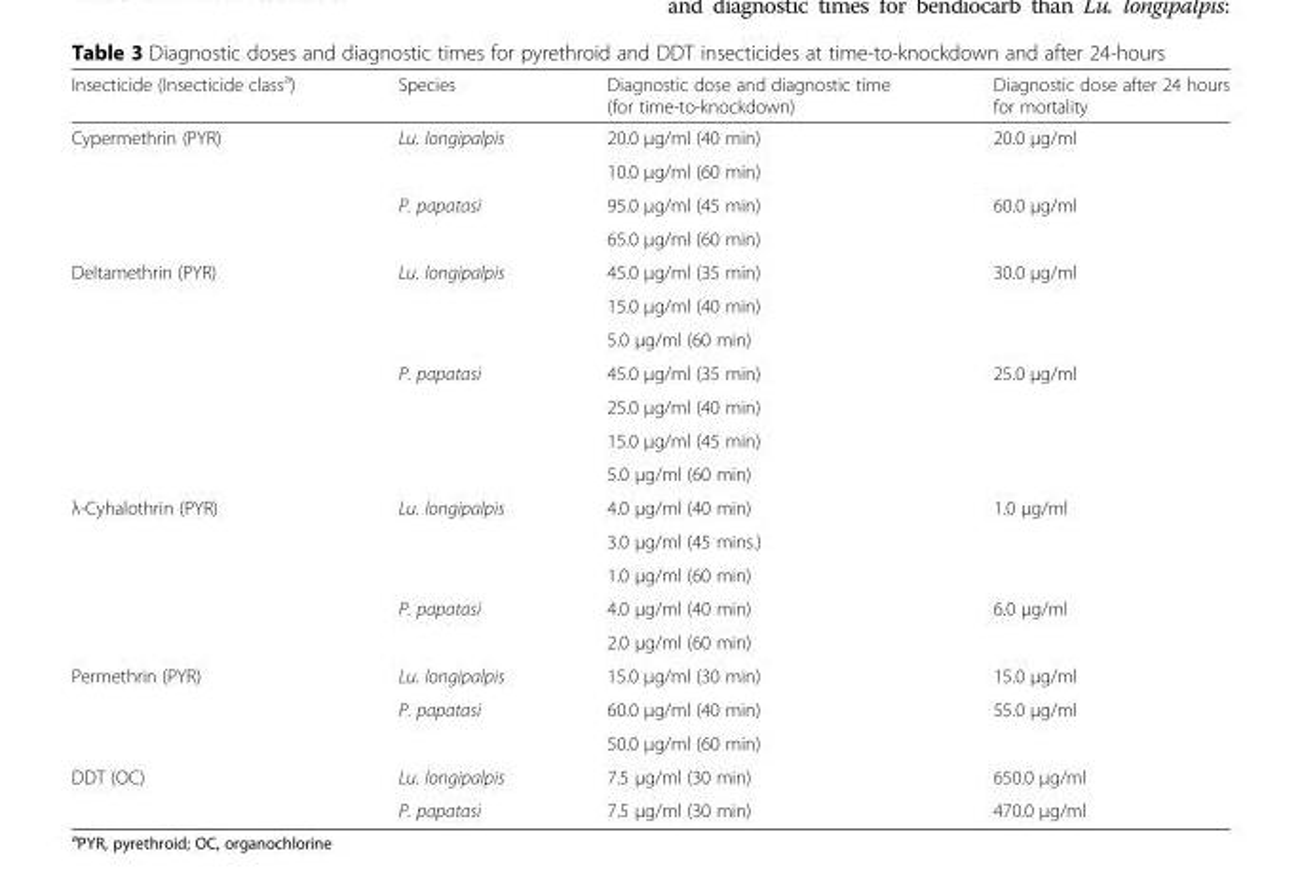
<table><thead><tr><td>Insecticide (Insecticide class<sup>a</sup>)</td><td>Species</td><td>Diagnostic dose and diagnostic time (for time-to-knockdown)</td><td>Diagnostic dose after 24 hours for mortality</td></tr></thead><tbody><tr><td rowspan="4">Cypermethrin (PYR)</td><td rowspan="2">Lu. longipalpis</td><td>20.0 μg/ml (40 min)</td><td rowspan="2">20.0 μg/ml</td></tr><tr><td>10.0 μg/ml (60 min)</td></tr><tr><td rowspan="2">P. papatasi</td><td>95.0 μg/ml (45 min)</td><td rowspan="2">60.0 μg/ml</td></tr><tr><td>65.0 μg/ml (60 min)</td></tr><tr><td rowspan="7">Deltamethrin (PYR)</td><td rowspan="3">Lu. longipalpis</td><td>45.0 μg/ml (35 min)</td><td rowspan="3">30.0 μg/ml</td></tr><tr><td>15.0 μg/ml (40 min)</td></tr><tr><td>5.0 μg/ml (60 min)</td></tr><tr><td rowspan="4">P. papatasi</td><td>45.0 μg/ml (35 min)</td><td rowspan="4">25.0 μg/ml</td></tr><tr><td>25.0 μg/ml (40 min)</td></tr><tr><td>15.0 μg/ml (45 min)</td></tr><tr><td>5.0 μg/ml (60 min)</td></tr><tr><td rowspan="5">λ-Cyhalothrin (PYR)</td><td rowspan="3">Lu. longipalpis</td><td>4.0 μg/ml (40 min)</td><td rowspan="3">1.0 μg/ml</td></tr><tr><td>3.0 μg/ml (45 mins.)</td></tr><tr><td>1.0 μg/ml (60 min)</td></tr><tr><td rowspan="2">P. papatasi</td><td>4.0 μg/ml (40 min)</td><td rowspan="2">6.0 μg/ml</td></tr><tr><td>2.0 μg/ml (60 min)</td></tr><tr><td rowspan="3">Permethrin (PYR)</td><td>Lu. longipalpis</td><td>15.0 μg/ml (30 min)</td><td>15.0 μg/ml</td></tr><tr><td rowspan="2">P. papatasi</td><td>60.0 μg/ml (40 min)</td><td rowspan="2">55.0 μg/ml</td></tr><tr><td>50.0 μg/ml (60 min)</td></tr><tr><td rowspan="2">DDT (OC)</td><td>Lu. longipalpis</td><td>7.5 μg/ml (30 min)</td><td>650.0 μg/ml</td></tr><tr><td>P. papatasi</td><td>7.5 μg/ml (30 min)</td><td>470.0 μg/ml</td></tr></tbody></table>